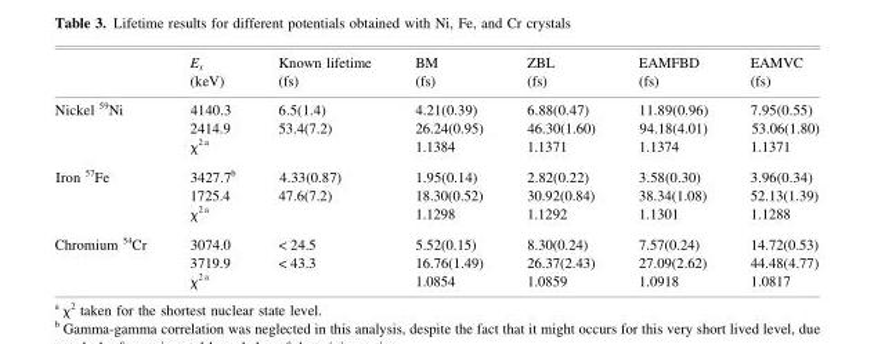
<table><thead><tr><td></td><td>E<sub>x</sub> (keV)</td><td>Known lifetime (fs)</td><td>BM (fs)</td><td>ZBL (fs)</td><td>EAMFBD (fs)</td><td>EAMVC (fs)</td></tr></thead><tbody><tr><td rowspan="3">Nickel <sup>59</sup>Ni</td><td>4140.3</td><td>6.5(1.4)</td><td>4.21(0.39)</td><td>6.88(0.47)</td><td>11.89(0.96)</td><td>7.95(0.55)</td></tr><tr><td>2414.9</td><td>53.4(7.2)</td><td>26.24(0.95)</td><td>46.30(1.60)</td><td>94.18(4.01)</td><td>53.06(1.80)</td></tr><tr><td>χ<sup>2 a</sup></td><td></td><td>1.1384</td><td>1.1371</td><td>1.1374</td><td>1.1371</td></tr><tr><td rowspan="3">Iron <sup>57</sup>Fe</td><td>3427.7<sup>b</sup></td><td>4.33(0.87)</td><td>1.95(0.14)</td><td>2.82(0.22)</td><td>3.58(0.30)</td><td>3.96(0.34)</td></tr><tr><td>1725.4</td><td>47.6(7.2)</td><td>18.30(0.52)</td><td>30.92(0.84)</td><td>38.34(1.08)</td><td>52.13(1.39)</td></tr><tr><td>χ<sup>2 a</sup></td><td></td><td>1.1298</td><td>1.1292</td><td>1.1301</td><td>1.1288</td></tr><tr><td rowspan="3">Chromium <sup>54</sup>Cr</td><td>3074.0</td><td>&lt; 24.5</td><td>5.52(0.15)</td><td>8.30(0.24)</td><td>7.57(0.24)</td><td>14.72(0.53)</td></tr><tr><td>3719.9</td><td>&lt; 43.3</td><td>16.76(1.49)</td><td>26.37(2.43)</td><td>27.09(2.62)</td><td>44.48(4.77)</td></tr><tr><td>χ<sup>2 a</sup></td><td></td><td>1.0854</td><td>1.0859</td><td>1.0918</td><td>1.0817</td></tr></tbody></table>